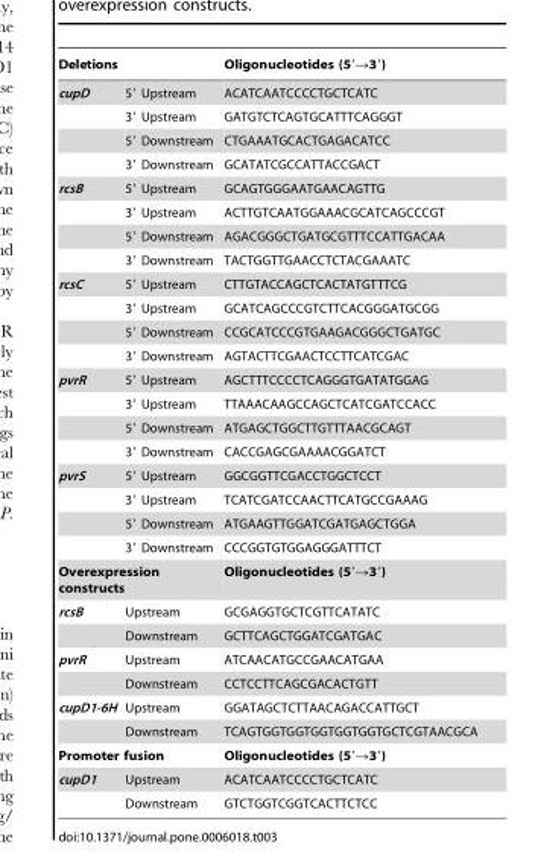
<table><thead><tr><td>Deletions</td><td></td><td>Oligonucleotides (5′→3′)</td></tr></thead><tbody><tr><td rowspan="4">cupD</td><td>5′ Upstream</td><td>ACATCAATCCCCTGCTCATC</td></tr><tr><td>3′ Upstream</td><td>GATGTCTCAGTGCATTTCAGGGT</td></tr><tr><td>5′ Downstream</td><td>CTGAAATGCACTGAGACATCC</td></tr><tr><td>3′ Downstream</td><td>GCATATCGCCATTACCGACT</td></tr><tr><td rowspan="4">rcsB</td><td>5′ Upstream</td><td>GCAGTGGGAATGAACAGTTG</td></tr><tr><td>3′ Upstream</td><td>ACTTGTCAATGGAAACGCATCAGCCCGT</td></tr><tr><td>5′ Downstream</td><td>AGACGGGCTGATGCGTTTCCATTGACAA</td></tr><tr><td>3′ Downstream</td><td>TACTGGTTGAACCTCTACGAAATC</td></tr><tr><td rowspan="4">rcsC</td><td>5′ Upstream</td><td>CTTGTACCAGCTCACTATGTTTCG</td></tr><tr><td>3′ Upstream</td><td>GCATCAGCCCGTCTTCACGGGATGCGG</td></tr><tr><td>5′ Downstream</td><td>CCGCATCCCGTGAAGACGGGCTGATGC</td></tr><tr><td>3′ Downstream</td><td>AGTACTTCGAACTCCTTCATCGAC</td></tr><tr><td rowspan="4">pvrR</td><td>5′ Upstream</td><td>AGCTTTCCCCTCAGGGTGATATGGAG</td></tr><tr><td>3′ Upstream</td><td>TTAAACAAGCCAGCTCATCGATCCACC</td></tr><tr><td>5′ Downstream</td><td>ATGAGCTGGCTTGTTTAACGCAGT</td></tr><tr><td>3′ Downstream</td><td>CACCGAGCGAAAACGGATCT</td></tr><tr><td rowspan="4">pvrS</td><td>5′ Upstream</td><td>GGCGGTTCGACCTGGCTCCT</td></tr><tr><td>3′ Upstream</td><td>TCATCGATCCAACTTCATGCCGAAAG</td></tr><tr><td>5′ Downstream</td><td>ATGAAGTTGGATCGATGAGCTGGA</td></tr><tr><td>3′ Downstream</td><td>CCCGGTGTGGAGGGATTTCT</td></tr><tr><td colspan="2">Overexpression constructs</td><td>Oligonucleotides (5′→3′)</td></tr><tr><td rowspan="2">rcsB</td><td>Upstream</td><td>GCGAGGTGCTCGTTCATATC</td></tr><tr><td>Downstream</td><td>GCTTCAGCTGGATCGATGAC</td></tr><tr><td rowspan="2">pvrR</td><td>Upstream</td><td>ATCAACATGCCGAACATGAA</td></tr><tr><td>Downstream</td><td>CCTCCTTCAGCGACACTGTT</td></tr><tr><td rowspan="2">cupD1-6H</td><td>Upstream</td><td>GGATAGCTCTTAACAGACCATTGCT</td></tr><tr><td>Downstream</td><td>TCAGTGGTGGTGGTGGTGGTGCTCGTAACGCA</td></tr><tr><td colspan="2">Promoter fusion</td><td>Oligonucleotides (5′→3′)</td></tr><tr><td rowspan="2">cupD1</td><td>Upstream</td><td>ACATCAATCCCCTGCTCATC</td></tr><tr><td>Downstream</td><td>GTCTGGTCGGTCACTTCTCC</td></tr></tbody></table>